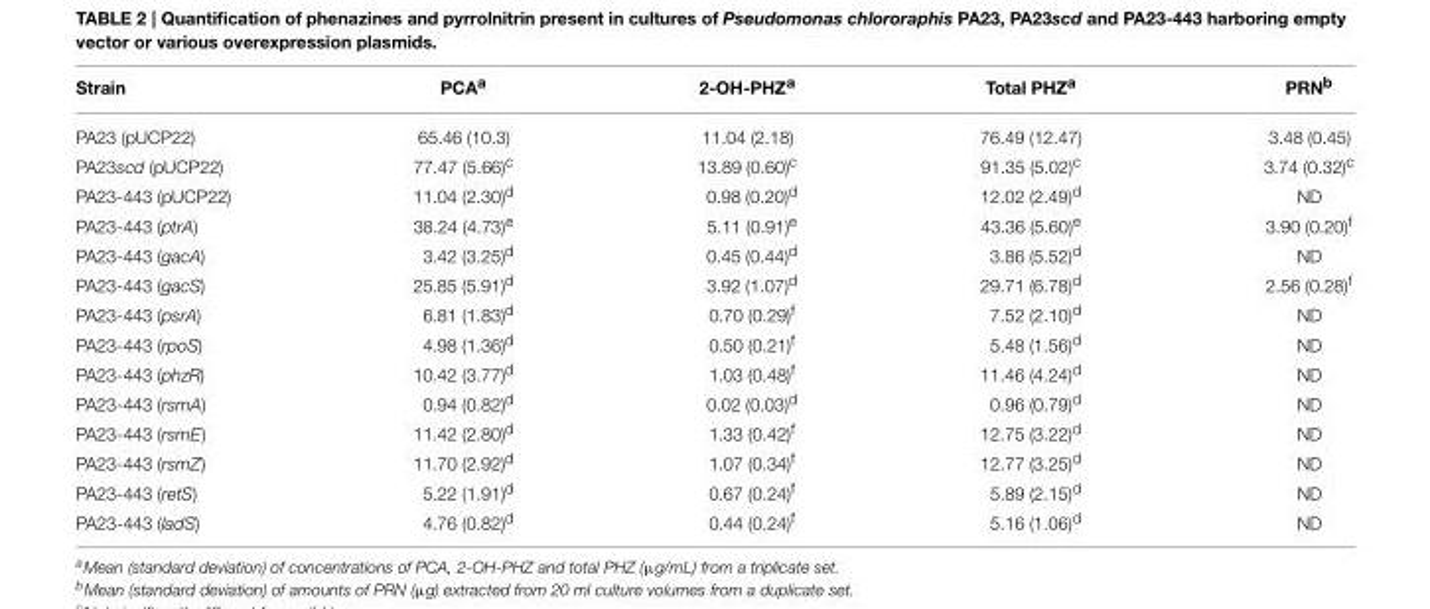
<table><thead><tr><td>Strain</td><td>PCA<sup>a</sup></td><td>2-OH-PHZ<sup>a</sup></td><td>Total PHZ<sup>a</sup></td><td>PRN<sup>b</sup></td></tr></thead><tbody><tr><td>PA23 (pUCP22)</td><td>65.46 (10.3)</td><td>11.04 (2.18)</td><td>76.49 (12.47)</td><td>3.48 (0.45)</td></tr><tr><td>PA23scd (pUCP22)</td><td>77.47 (5.66)<sup>c</sup></td><td>13.89 (0.60)<sup>c</sup></td><td>91.35 (5.02)<sup>c</sup></td><td>3.74 (0.32)<sup>c</sup></td></tr><tr><td>PA23-443 (pUCP22)</td><td>11.04 (2.30)<sup>d</sup></td><td>0.98 (0.20)<sup>d</sup></td><td>12.02 (2.49)<sup>d</sup></td><td>ND</td></tr><tr><td>PA23-443 (ptrA)</td><td>38.24 (4.73)<sup>e</sup></td><td>5.11 (0.91)<sup>e</sup></td><td>43.36 (5.60)<sup>e</sup></td><td>3.90 (0.20)<sup>f</sup></td></tr><tr><td>PA23-443 (gacA)</td><td>3.42 (3.25)<sup>d</sup></td><td>0.45 (0.44)<sup>d</sup></td><td>3.86 (5.52)<sup>d</sup></td><td>ND</td></tr><tr><td>PA23-443 (gacS)</td><td>25.85 (5.91)<sup>d</sup></td><td>3.92 (1.07)<sup>d</sup></td><td>29.71 (6.78)<sup>d</sup></td><td>2.56 (0.28)<sup>f</sup></td></tr><tr><td>PA23-443 (psrA)</td><td>6.81 (1.83)<sup>d</sup></td><td>0.70 (0.29)<sup>f</sup></td><td>7.52 (2.10)<sup>d</sup></td><td>ND</td></tr><tr><td>PA23-443 (rpoS)</td><td>4.98 (1.36)<sup>d</sup></td><td>0.50 (0.21)<sup>f</sup></td><td>5.48 (1.56)<sup>d</sup></td><td>ND</td></tr><tr><td>PA23-443 (phzR)</td><td>10.42 (3.77)<sup>d</sup></td><td>1.03 (0.48)<sup>f</sup></td><td>11.46 (4.24)<sup>d</sup></td><td>ND</td></tr><tr><td>PA23-443 (rsmA)</td><td>0.94 (0.82)<sup>d</sup></td><td>0.02 (0.03)<sup>d</sup></td><td>0.96 (0.79)<sup>d</sup></td><td>ND</td></tr><tr><td>PA23-443 (rsmE)</td><td>11.42 (2.80)<sup>d</sup></td><td>1.33 (0.42)<sup>f</sup></td><td>12.75 (3.22)<sup>d</sup></td><td>ND</td></tr><tr><td>PA23-443 (rsmZ)</td><td>11.70 (2.92)<sup>d</sup></td><td>1.07 (0.34)<sup>f</sup></td><td>12.77 (3.25)<sup>d</sup></td><td>ND</td></tr><tr><td>PA23-443 (retS)</td><td>5.22 (1.91)<sup>d</sup></td><td>0.67 (0.24)<sup>f</sup></td><td>5.89 (2.15)<sup>d</sup></td><td>ND</td></tr><tr><td>PA23-443 (ladS)</td><td>4.76 (0.82)<sup>d</sup></td><td>0.44 (0.24)<sup>f</sup></td><td>5.16 (1.06)<sup>d</sup></td><td>ND</td></tr></tbody></table>